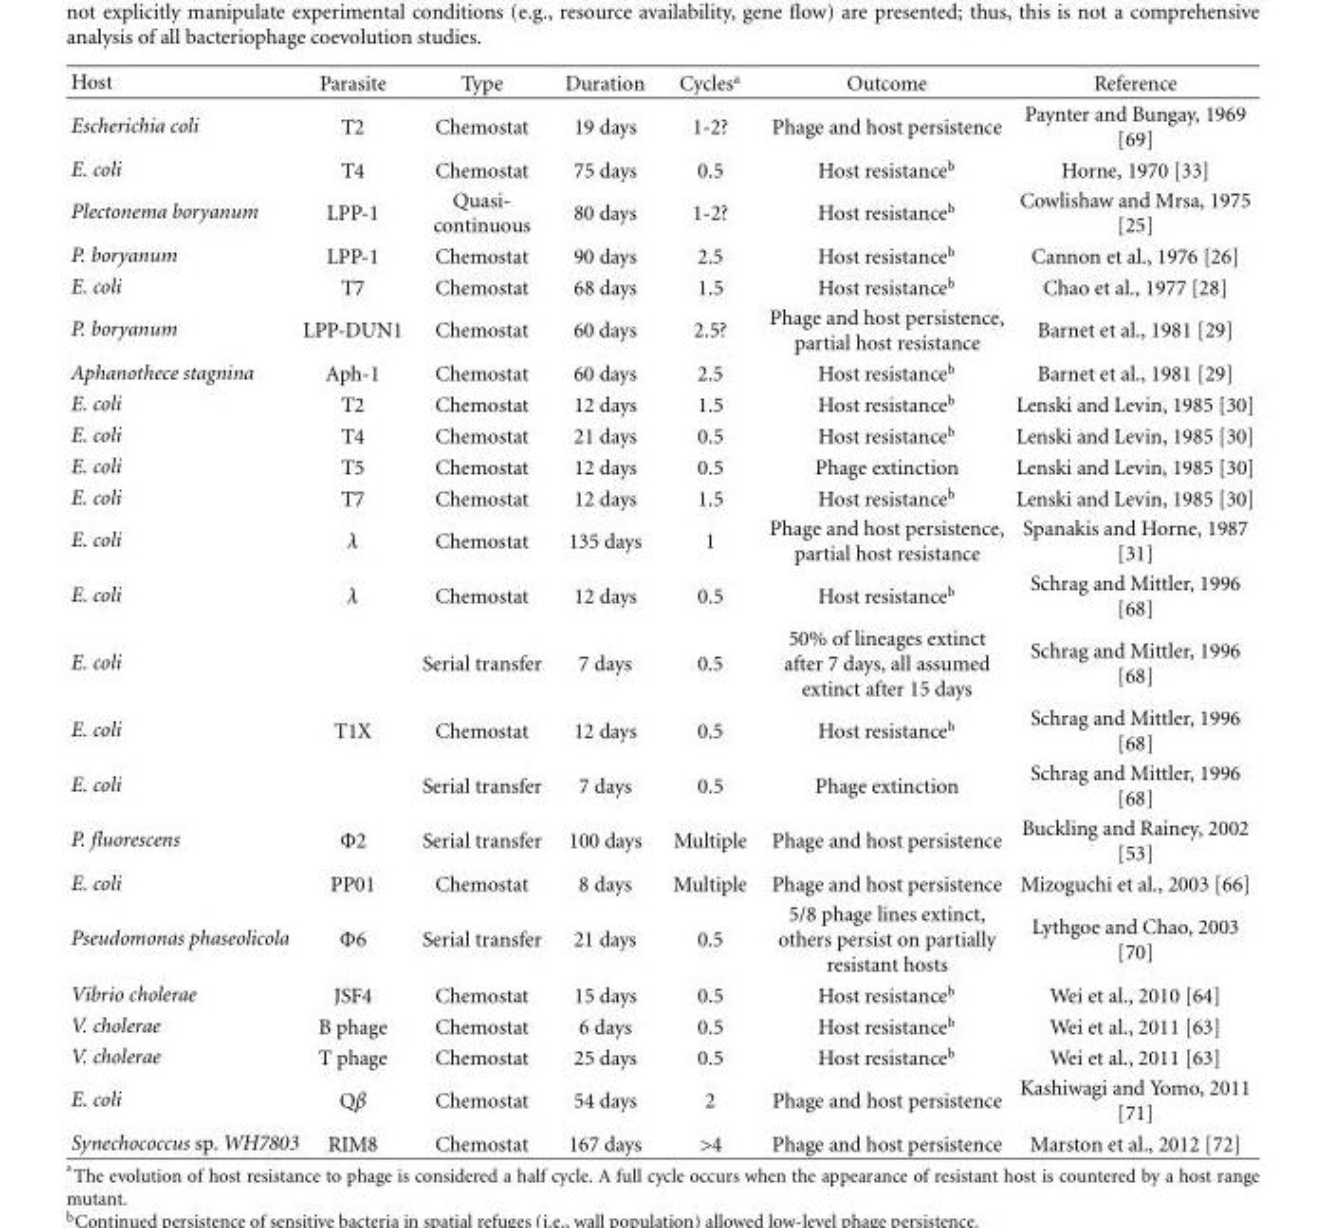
<table><thead><tr><td>Host</td><td>Parasite</td><td>Type</td><td>Duration</td><td>Cycles<sup>a</sup></td><td>Outcome</td><td>Reference</td></tr></thead><tbody><tr><td>Escherichia coli</td><td>T2</td><td>Chemostat</td><td>19 days</td><td>1-2?</td><td>Phage and host persistence</td><td>Paynter and Bungay, 1969 [69]</td></tr><tr><td>E. coli</td><td>T4</td><td>Chemostat</td><td>75 days</td><td>0.5</td><td>Host resistance<sup>b</sup></td><td>Horne, 1970 [33]</td></tr><tr><td>Plectonema boryanum</td><td>LPP-1</td><td>Quasi- continuous</td><td>80 days</td><td>1-2?</td><td>Host resistance<sup>b</sup></td><td>Cowlishaw and Mrsa, 1975 [25]</td></tr><tr><td>P. boryanum</td><td>LPP-1</td><td>Chemostat</td><td>90 days</td><td>2.5</td><td>Host resistance<sup>b</sup></td><td>Cannon et al., 1976 [26]</td></tr><tr><td>E. coli</td><td>T7</td><td>Chemostat</td><td>68 days</td><td>1.5</td><td>Host resistance<sup>b</sup></td><td>Chao et al., 1977 [28]</td></tr><tr><td>P. boryanum</td><td>LPP-DUN1</td><td>Chemostat</td><td>60 days</td><td>2.5?</td><td>Phage and host persistence, partial host resistance</td><td>Barnet et al., 1981 [29]</td></tr><tr><td>Aphanothece stagnina</td><td>Aph-1</td><td>Chemostat</td><td>60 days</td><td>2.5</td><td>Host resistance<sup>b</sup></td><td>Barnet et al., 1981 [29]</td></tr><tr><td>E. coli</td><td>T2</td><td>Chemostat</td><td>12 days</td><td>1.5</td><td>Host resistance<sup>b</sup></td><td>Lenski and Levin, 1985 [30]</td></tr><tr><td>E. coli</td><td>T4</td><td>Chemostat</td><td>21 days</td><td>0.5</td><td>Host resistance<sup>b</sup></td><td>Lenski and Levin, 1985 [30]</td></tr><tr><td>E. coli</td><td>T5</td><td>Chemostat</td><td>12 days</td><td>0.5</td><td>Phage extinction</td><td>Lenski and Levin, 1985 [30]</td></tr><tr><td>E. coli</td><td>T7</td><td>Chemostat</td><td>12 days</td><td>1.5</td><td>Host resistance<sup>b</sup></td><td>Lenski and Levin, 1985 [30]</td></tr><tr><td>E. coli</td><td>λ</td><td>Chemostat</td><td>135 days</td><td>1</td><td>Phage and host persistence, partial host resistance</td><td>Spanakis and Horne, 1987 [31]</td></tr><tr><td>E. coli</td><td>λ</td><td>Chemostat</td><td>12 days</td><td>0.5</td><td>Host resistance<sup>b</sup></td><td>Schrag and Mittler, 1996 [68]</td></tr><tr><td>E. coli</td><td></td><td>Serial transfer</td><td>7 days</td><td>0.5</td><td>50% of lineages extinct after 7 days, all assumed extinct after 15 days</td><td>Schrag and Mittler, 1996 [68]</td></tr><tr><td>E. coli</td><td>T1X</td><td>Chemostat</td><td>12 days</td><td>0.5</td><td>Host resistance<sup>b</sup></td><td>Schrag and Mittler, 1996 [68]</td></tr><tr><td>E. coli</td><td></td><td>Serial transfer</td><td>7 days</td><td>0.5</td><td>Phage extinction</td><td>Schrag and Mittler, 1996 [68]</td></tr><tr><td>P. fluorescens</td><td>Φ2</td><td>Serial transfer</td><td>100 days</td><td>Multiple</td><td>Phage and host persistence</td><td>Buckling and Rainey, 2002 [53]</td></tr><tr><td>E. coli</td><td>PP01</td><td>Chemostat</td><td>8 days</td><td>Multiple</td><td>Phage and host persistence</td><td>Mizoguchi et al., 2003 [66]</td></tr><tr><td>Pseudomonas phaseolicola</td><td>Φ6</td><td>Serial transfer</td><td>21 days</td><td>0.5</td><td>5/8 phage lines extinct, others persist on partially resistant hosts</td><td>Lythgoe and Chao, 2003 [70]</td></tr><tr><td>Vibrio cholerae</td><td>JSF4</td><td>Chemostat</td><td>15 days</td><td>0.5</td><td>Host resistance<sup>b</sup></td><td>Wei et al., 2010 [64]</td></tr><tr><td>V. cholerae</td><td>B phage</td><td>Chemostat</td><td>6 days</td><td>0.5</td><td>Host resistance<sup>b</sup></td><td>Wei et al., 2011 [63]</td></tr><tr><td>V. cholerae</td><td>T phage</td><td>Chemostat</td><td>25 days</td><td>0.5</td><td>Host resistance<sup>b</sup></td><td>Wei et al., 2011 [63]</td></tr><tr><td>E. coli</td><td>Qβ</td><td>Chemostat</td><td>54 days</td><td>2</td><td>Phage and host persistence</td><td>Kashiwagi and Yomo, 2011 [71]</td></tr><tr><td>Synechococcus sp. WH7803</td><td>RIM8</td><td>Chemostat</td><td>167 days</td><td>&gt;4</td><td>Phage and host persistence</td><td>Marston et al., 2012 [72]</td></tr></tbody></table>